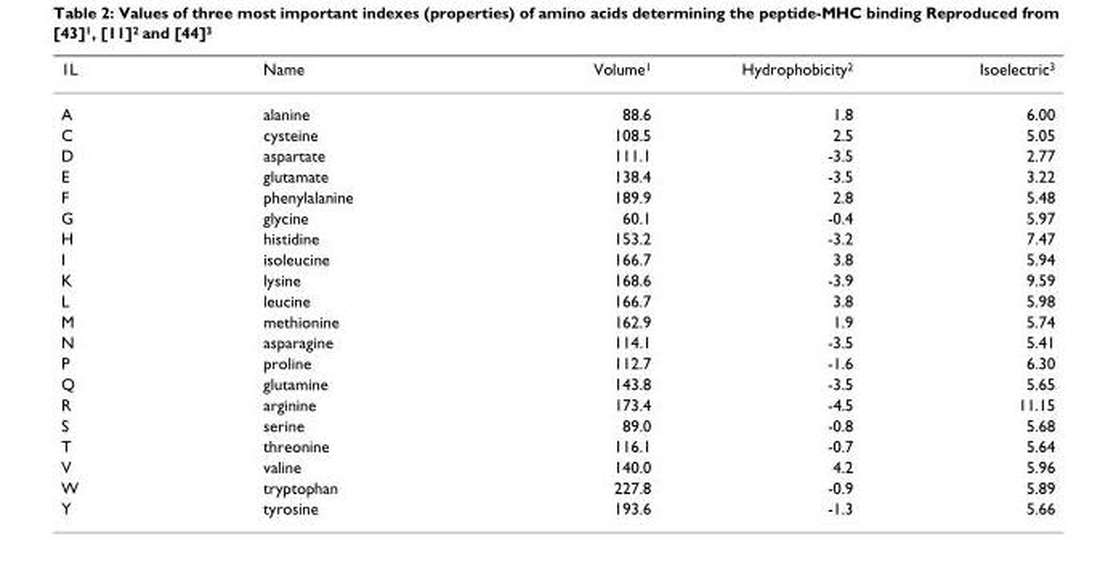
<table><thead><tr><td>1L</td><td>Name</td><td>Volume<sup>1</sup></td><td>Hydrophobicity<sup>2</sup></td><td>Isoelectric<sup>3</sup></td></tr></thead><tbody><tr><td>A</td><td>alanine</td><td>88.6</td><td>1.8</td><td>6.00</td></tr><tr><td>C</td><td>cysteine</td><td>108.5</td><td>2.5</td><td>5.05</td></tr><tr><td>D</td><td>aspartate</td><td>111.1</td><td>-3.5</td><td>2.77</td></tr><tr><td>E</td><td>glutamate</td><td>138.4</td><td>-3.5</td><td>3.22</td></tr><tr><td>F</td><td>phenylalanine</td><td>189.9</td><td>2.8</td><td>5.48</td></tr><tr><td>G</td><td>glycine</td><td>60.1</td><td>-0.4</td><td>5.97</td></tr><tr><td>H</td><td>histidine</td><td>153.2</td><td>-3.2</td><td>7.47</td></tr><tr><td>I</td><td>isoleucine</td><td>166.7</td><td>3.8</td><td>5.94</td></tr><tr><td>K</td><td>lysine</td><td>168.6</td><td>-3.9</td><td>9.59</td></tr><tr><td>L</td><td>leucine</td><td>166.7</td><td>3.8</td><td>5.98</td></tr><tr><td>M</td><td>methionine</td><td>162.9</td><td>1.9</td><td>5.74</td></tr><tr><td>N</td><td>asparagine</td><td>114.1</td><td>-3.5</td><td>5.41</td></tr><tr><td>P</td><td>proline</td><td>112.7</td><td>-1.6</td><td>6.30</td></tr><tr><td>Q</td><td>glutamine</td><td>143.8</td><td>-3.5</td><td>5.65</td></tr><tr><td>R</td><td>arginine</td><td>173.4</td><td>-4.5</td><td>11.15</td></tr><tr><td>S</td><td>serine</td><td>89.0</td><td>-0.8</td><td>5.68</td></tr><tr><td>T</td><td>threonine</td><td>116.1</td><td>-0.7</td><td>5.64</td></tr><tr><td>V</td><td>valine</td><td>140.0</td><td>4.2</td><td>5.96</td></tr><tr><td>W</td><td>tryptophan</td><td>227.8</td><td>-0.9</td><td>5.89</td></tr><tr><td>Y</td><td>tyrosine</td><td>193.6</td><td>-1.3</td><td>5.66</td></tr></tbody></table>